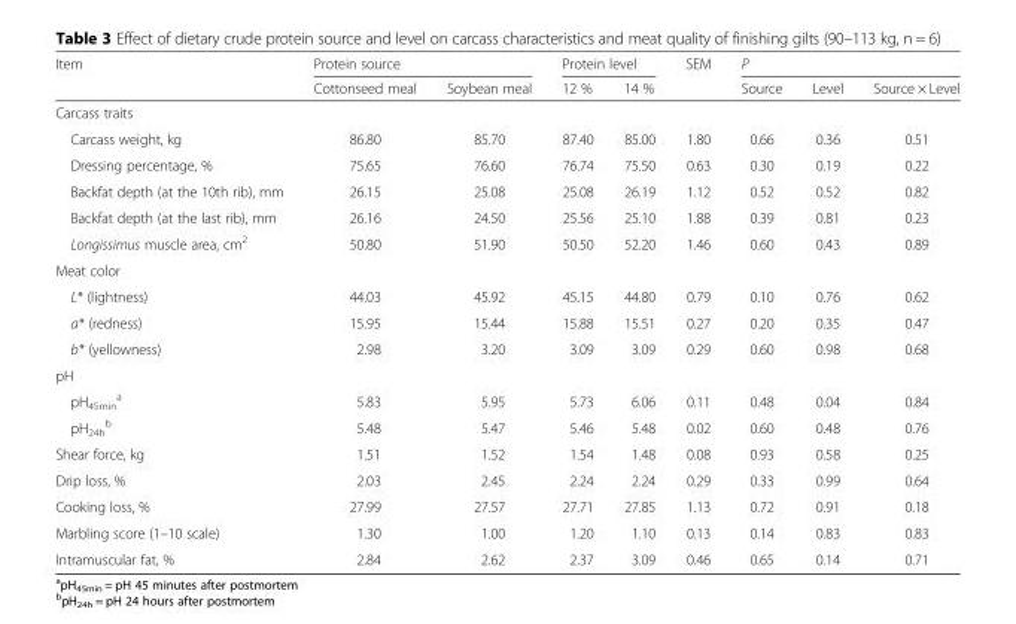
<table><thead><tr><td rowspan="2">Item</td><td colspan="2">Protein source</td><td colspan="2">Protein level</td><td rowspan="2">SEM</td><td colspan="3">P</td></tr><tr><td>Cottonseed meal</td><td>Soybean meal</td><td>12 %</td><td>14 %</td><td>Source</td><td>Level</td><td>Source × Level</td></tr></thead><tbody><tr><td colspan="9">Carcass traits</td></tr><tr><td>Carcass weight, kg</td><td>86.80</td><td>85.70</td><td>87.40</td><td>85.00</td><td>1.80</td><td>0.66</td><td>0.36</td><td>0.51</td></tr><tr><td>Dressing percentage, %</td><td>75.65</td><td>76.60</td><td>76.74</td><td>75.50</td><td>0.63</td><td>0.30</td><td>0.19</td><td>0.22</td></tr><tr><td>Backfat depth (at the 10th rib), mm</td><td>26.15</td><td>25.08</td><td>25.08</td><td>26.19</td><td>1.12</td><td>0.52</td><td>0.52</td><td>0.82</td></tr><tr><td>Backfat depth (at the last rib), mm</td><td>26.16</td><td>24.50</td><td>25.56</td><td>25.10</td><td>1.88</td><td>0.39</td><td>0.81</td><td>0.23</td></tr><tr><td>Longissimus muscle area, cm<sup>2</sup></td><td>50.80</td><td>51.90</td><td>50.50</td><td>52.20</td><td>1.46</td><td>0.60</td><td>0.43</td><td>0.89</td></tr><tr><td colspan="9">Meat color</td></tr><tr><td>L* (lightness)</td><td>44.03</td><td>45.92</td><td>45.15</td><td>44.80</td><td>0.79</td><td>0.10</td><td>0.76</td><td>0.62</td></tr><tr><td>a* (redness)</td><td>15.95</td><td>15.44</td><td>15.88</td><td>15.51</td><td>0.27</td><td>0.20</td><td>0.35</td><td>0.47</td></tr><tr><td>b* (yellowness)</td><td>2.98</td><td>3.20</td><td>3.09</td><td>3.09</td><td>0.29</td><td>0.60</td><td>0.98</td><td>0.68</td></tr><tr><td colspan="9">pH</td></tr><tr><td>pH<sub>45min</sub> <sup>a</sup></td><td>5.83</td><td>5.95</td><td>5.73</td><td>6.06</td><td>0.11</td><td>0.48</td><td>0.04</td><td>0.84</td></tr><tr><td>pH<sub>24h</sub> <sup>b</sup></td><td>5.48</td><td>5.47</td><td>5.46</td><td>5.48</td><td>0.02</td><td>0.60</td><td>0.48</td><td>0.76</td></tr><tr><td>Shear force, kg</td><td>1.51</td><td>1.52</td><td>1.54</td><td>1.48</td><td>0.08</td><td>0.93</td><td>0.58</td><td>0.25</td></tr><tr><td>Drip loss, %</td><td>2.03</td><td>2.45</td><td>2.24</td><td>2.24</td><td>0.29</td><td>0.33</td><td>0.99</td><td>0.64</td></tr><tr><td>Cooking loss, %</td><td>27.99</td><td>27.57</td><td>27.71</td><td>27.85</td><td>1.13</td><td>0.72</td><td>0.91</td><td>0.18</td></tr><tr><td>Marbling score (1–10 scale)</td><td>1.30</td><td>1.00</td><td>1.20</td><td>1.10</td><td>0.13</td><td>0.14</td><td>0.83</td><td>0.83</td></tr><tr><td>Intramuscular fat, %</td><td>2.84</td><td>2.62</td><td>2.37</td><td>3.09</td><td>0.46</td><td>0.65</td><td>0.14</td><td>0.71</td></tr></tbody></table>